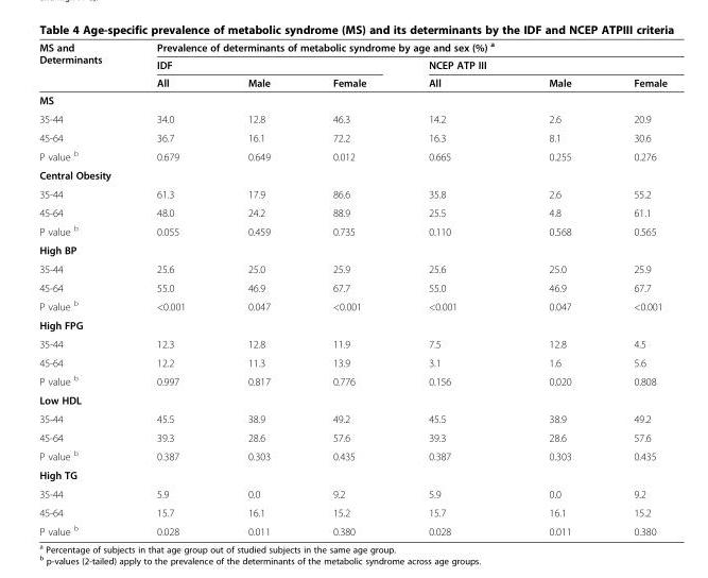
<table><thead><tr><td rowspan="3">MS and Determinants</td><td colspan="6">Prevalence of determinants of metabolic syndrome by age and sex (%) <sup>a</sup></td></tr><tr><td colspan="3">IDF</td><td rowspan="2">NCEP ATP III All</td><td rowspan="2">Male</td><td rowspan="2">Female</td></tr><tr><td>All</td><td>Male</td><td>Female</td></tr></thead><tbody><tr><td colspan="7">MS</td></tr><tr><td>35-44</td><td>34.0</td><td>12.8</td><td>46.3</td><td>14.2</td><td>2.6</td><td>20.9</td></tr><tr><td>45-64</td><td>36.7</td><td>16.1</td><td>72.2</td><td>16.3</td><td>8.1</td><td>30.6</td></tr><tr><td>P value <sup>b</sup></td><td>0.679</td><td>0.649</td><td>0.012</td><td>0.665</td><td>0.255</td><td>0.276</td></tr><tr><td colspan="7">Central Obesity</td></tr><tr><td>35-44</td><td>61.3</td><td>17.9</td><td>86.6</td><td>35.8</td><td>2.6</td><td>55.2</td></tr><tr><td>45-64</td><td>48.0</td><td>24.2</td><td>88.9</td><td>25.5</td><td>4.8</td><td>61.1</td></tr><tr><td>P value <sup>b</sup></td><td>0.055</td><td>0.459</td><td>0.735</td><td>0.110</td><td>0.568</td><td>0.565</td></tr><tr><td colspan="7">High BP</td></tr><tr><td>35-44</td><td>25.6</td><td>25.0</td><td>25.9</td><td>25.6</td><td>25.0</td><td>25.9</td></tr><tr><td>45-64</td><td>55.0</td><td>46.9</td><td>67.7</td><td>55.0</td><td>46.9</td><td>67.7</td></tr><tr><td>P value <sup>b</sup></td><td>&lt;0.001</td><td>0.047</td><td>&lt;0.001</td><td>&lt;0.001</td><td>0.047</td><td>&lt;0.001</td></tr><tr><td colspan="7">High FPG</td></tr><tr><td>35-44</td><td>12.3</td><td>12.8</td><td>11.9</td><td>7.5</td><td>12.8</td><td>4.5</td></tr><tr><td>45-64</td><td>12.2</td><td>11.3</td><td>13.9</td><td>3.1</td><td>1.6</td><td>5.6</td></tr><tr><td>P value <sup>b</sup></td><td>0.997</td><td>0.817</td><td>0.776</td><td>0.156</td><td>0.020</td><td>0.808</td></tr><tr><td colspan="7">Low HDL</td></tr><tr><td>35-44</td><td>45.5</td><td>38.9</td><td>49.2</td><td>45.5</td><td>38.9</td><td>49.2</td></tr><tr><td>45-64</td><td>39.3</td><td>28.6</td><td>57.6</td><td>39.3</td><td>28.6</td><td>57.6</td></tr><tr><td>P value <sup>b</sup></td><td>0.387</td><td>0.303</td><td>0.435</td><td>0.387</td><td>0.303</td><td>0.435</td></tr><tr><td colspan="7">High TG</td></tr><tr><td>35-44</td><td>5.9</td><td>0.0</td><td>9.2</td><td>5.9</td><td>0.0</td><td>9.2</td></tr><tr><td>45-64</td><td>15.7</td><td>16.1</td><td>15.2</td><td>15.7</td><td>16.1</td><td>15.2</td></tr><tr><td>P value <sup>b</sup></td><td>0.028</td><td>0.011</td><td>0.380</td><td>0.028</td><td>0.011</td><td>0.380</td></tr></tbody></table>